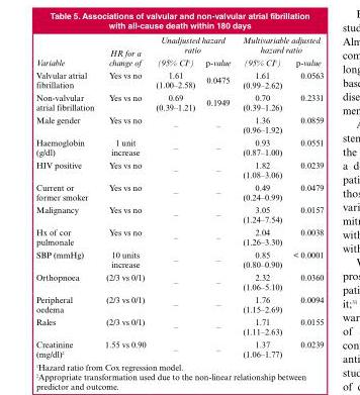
<table><thead><tr><td rowspan="2">Variable</td><td rowspan="2">HR for a change of</td><td colspan="2">Unadjusted hazard ratio</td><td colspan="2">Multivariable adjusted hazard ratio</td></tr><tr><td>(95% CI1)</td><td>p-value</td><td>(95% CI1)</td><td>p-value</td></tr></thead><tbody><tr><td>Valvular atrial fibrillation</td><td>Yes vs no</td><td>1.61 (1.00–2.58)</td><td>0.0475</td><td>1.61 (0.99–2.62)</td><td>0.0563</td></tr><tr><td>Non-valvular atrial fibrillation</td><td>Yes vs no</td><td>0.69 (0.39–1.21)</td><td>0.1949</td><td>0.70 (0.39–1.26)</td><td>0.2331</td></tr><tr><td>Male gender</td><td>Yes vs no</td><td>–</td><td>–</td><td>1.36 (0.96–1.92)</td><td>0.0859</td></tr><tr><td>Haemoglobin (g/dl)</td><td>1 unit increase</td><td>–</td><td>–</td><td>0.93 (0.87–1.00)</td><td>0.0551</td></tr><tr><td>HIV positive</td><td>Yes vs no</td><td>–</td><td>–</td><td>1.82 (1.08–3.06)</td><td>0.0239</td></tr><tr><td>Current or former smoker</td><td>Yes vs no</td><td>–</td><td>–</td><td>0.49 (0.24–0.99)</td><td>0.0479</td></tr><tr><td>Malignancy</td><td>Yes vs no</td><td>–</td><td>–</td><td>3.05 (1.24–7.54)</td><td>0.0157</td></tr><tr><td>Hx of cor pulmonale</td><td>Yes vs no</td><td>–</td><td>–</td><td>2.04 (1.26–3.30)</td><td>0.0038</td></tr><tr><td>SBP (mmHg)</td><td>10 units increase</td><td>–</td><td>–</td><td>0.85 (0.80–0.90)</td><td>&lt; 0.0001</td></tr><tr><td>Orthopnoea</td><td>(2/3 vs 0/1)</td><td>–</td><td>–</td><td>2.32 (1.06–5.10)</td><td>0.0360</td></tr><tr><td>Peripheral oedema</td><td>(2/3 vs 0/1)</td><td>–</td><td>–</td><td>1.76 (1.15–2.69)</td><td>0.0094</td></tr><tr><td>Rales</td><td>(2/3 vs 0/1)</td><td>–</td><td>–</td><td>1.71 (1.11–2.63)</td><td>0.0155</td></tr><tr><td>Creatinine (mg/dl)2</td><td>1.55 vs 0.90</td><td>–</td><td>–</td><td>1.37 (1.06–1.77)</td><td>0.0239</td></tr></tbody></table>